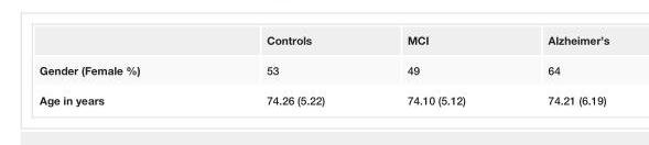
<table><thead><tr><td></td><td>Controls</td><td>MCI</td><td>Alzheimer’s</td></tr></thead><tbody><tr><td>Gender (Female %)</td><td>53</td><td>49</td><td>64</td></tr><tr><td>Age in years</td><td>74.26 (5.22)</td><td>74.10 (5.12)</td><td>74.21 (6.19)</td></tr></tbody></table>